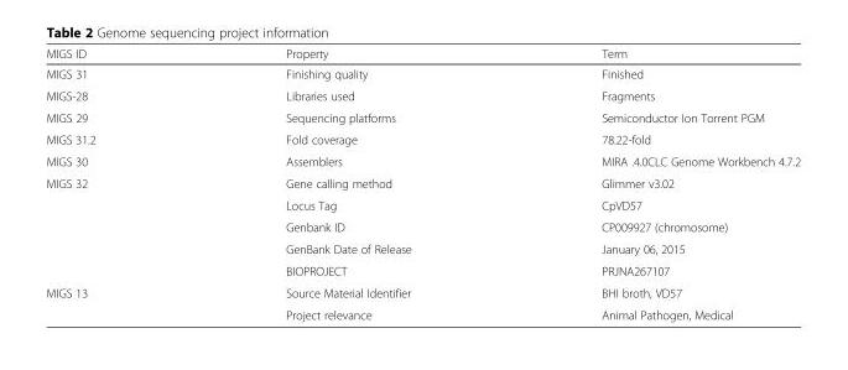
<table><thead><tr><td>MIGS ID</td><td>Property</td><td>Term</td></tr></thead><tbody><tr><td>MIGS 31</td><td>Finishing quality</td><td>Finished</td></tr><tr><td>MIGS-28</td><td>Libraries used</td><td>Fragments</td></tr><tr><td>MIGS 29</td><td>Sequencing platforms</td><td>Semiconductor Ion Torrent PGM</td></tr><tr><td>MIGS 31.2</td><td>Fold coverage</td><td>78.22-fold</td></tr><tr><td>MIGS 30</td><td>Assemblers</td><td>MIRA .4.0CLC Genome Workbench 4.7.2</td></tr><tr><td rowspan="5">MIGS 32</td><td>Gene calling method</td><td>Glimmer v3.02</td></tr><tr><td>Locus Tag</td><td>CpVD57</td></tr><tr><td>Genbank ID</td><td>CP009927 (chromosome)</td></tr><tr><td>GenBank Date of Release</td><td>January 06, 2015</td></tr><tr><td>BIOPROJECT</td><td>PRJNA267107</td></tr><tr><td rowspan="2">MIGS 13</td><td>Source Material Identifier</td><td>BHI broth, VD57</td></tr><tr><td>Project relevance</td><td>Animal Pathogen, Medical</td></tr></tbody></table>